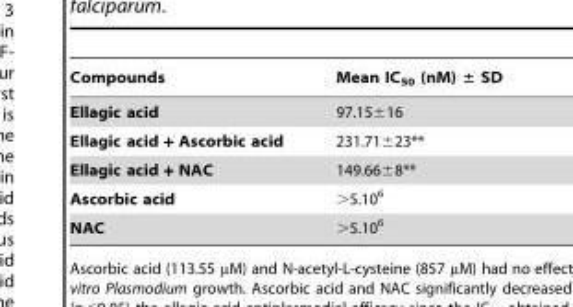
<table><thead><tr><td>Compounds</td><td>Mean IC<sub>50</sub> (nM) ± SD</td></tr></thead><tbody><tr><td>Ellagic acid</td><td>97.15±16</td></tr><tr><td>Ellagic acid + Ascorbic acid</td><td>231.71±23**</td></tr><tr><td>Ellagic acid + NAC</td><td>149.66±8**</td></tr><tr><td>Ascorbic acid</td><td>&gt;5.10<sup>6</sup></td></tr><tr><td>NAC</td><td>&gt;5.10<sup>6</sup></td></tr></tbody></table>